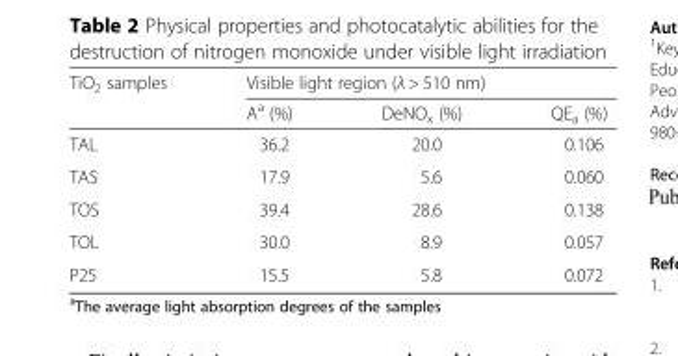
<table><thead><tr><td rowspan="2">TiO<sub>2</sub> samples</td><td colspan="3">Visible light region (λ &gt; 510 nm)</td></tr><tr><td>A<sup>a</sup> (%)</td><td>DeNO<sub>x</sub> (%)</td><td>QE<sub>a</sub> (%)</td></tr></thead><tbody><tr><td>TAL</td><td>36.2</td><td>20.0</td><td>0.106</td></tr><tr><td>TAS</td><td>17.9</td><td>5.6</td><td>0.060</td></tr><tr><td>TOS</td><td>39.4</td><td>28.6</td><td>0.138</td></tr><tr><td>TOL</td><td>30.0</td><td>8.9</td><td>0.057</td></tr><tr><td>P25</td><td>15.5</td><td>5.8</td><td>0.072</td></tr></tbody></table>